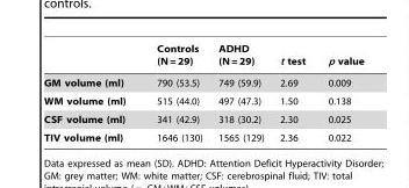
<table><thead><tr><td></td><td>Controls (N = 29)</td><td>ADHD (N = 29)</td><td>t test</td><td>p value</td></tr></thead><tbody><tr><td>GM volume (ml)</td><td>790 (53.5)</td><td>749 (59.9)</td><td>2.69</td><td>0.009</td></tr><tr><td>WM volume (ml)</td><td>515 (44.0)</td><td>497 (47.3)</td><td>1.50</td><td>0.138</td></tr><tr><td>CSF volume (ml)</td><td>341 (42.9)</td><td>318 (30.2)</td><td>2.30</td><td>0.025</td></tr><tr><td>TIV volume (ml)</td><td>1646 (130)</td><td>1565 (129)</td><td>2.36</td><td>0.022</td></tr></tbody></table>